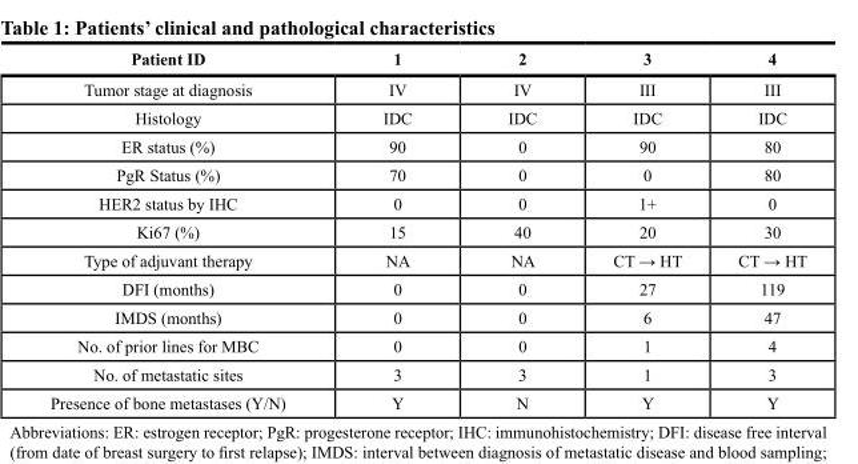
<table><thead><tr><td>Patient ID</td><td>1</td><td>2</td><td>3</td><td>4</td></tr></thead><tbody><tr><td>Tumor stage at diagnosis</td><td>IV</td><td>IV</td><td>III</td><td>III</td></tr><tr><td>Histology</td><td>IDC</td><td>IDC</td><td>IDC</td><td>IDC</td></tr><tr><td>ER status (%)</td><td>90</td><td>0</td><td>90</td><td>80</td></tr><tr><td>PgR Status (%)</td><td>70</td><td>0</td><td>0</td><td>80</td></tr><tr><td>HER2 status by IHC</td><td>0</td><td>0</td><td>1+</td><td>0</td></tr><tr><td>Ki67 (%)</td><td>15</td><td>40</td><td>20</td><td>30</td></tr><tr><td>Type of adjuvant therapy</td><td>NA</td><td>NA</td><td>CT → HT</td><td>CT → HT</td></tr><tr><td>DFI (months)</td><td>0</td><td>0</td><td>27</td><td>119</td></tr><tr><td>IMDS (months)</td><td>0</td><td>0</td><td>6</td><td>47</td></tr><tr><td>No. of prior lines for MBC</td><td>0</td><td>0</td><td>1</td><td>4</td></tr><tr><td>No. of metastatic sites</td><td>3</td><td>3</td><td>1</td><td>3</td></tr><tr><td>Presence of bone metastases (Y/N)</td><td>Y</td><td>N</td><td>Y</td><td>Y</td></tr></tbody></table>